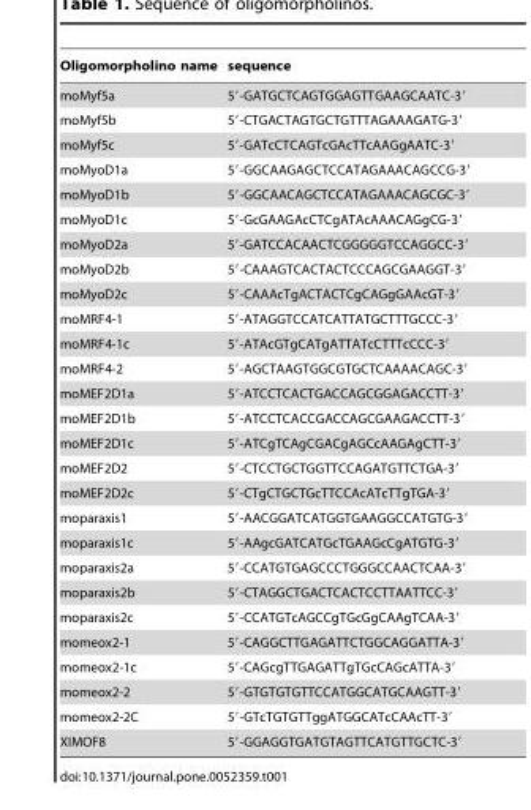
<table><thead><tr><td>Oligomorpholino name</td><td>sequence</td></tr></thead><tbody><tr><td>moMyf5a</td><td>5′-GATGCTCAGTGGAGTTGAAGCAATC-3′</td></tr><tr><td>moMyf5b</td><td>5′-CTGACTAGTGCTGTTTAGAAAGATG-3′</td></tr><tr><td>moMyf5c</td><td>5′-GATcCTCAGTcGAcTTcAAGgAATC-3′</td></tr><tr><td>moMyoD1a</td><td>5′-GGCAAGAGCTCCATAGAAACAGCCG-3′</td></tr><tr><td>moMyoD1b</td><td>5′-GGCAACAGCTCCATAGAAACAGCGC-3′</td></tr><tr><td>moMyoD1c</td><td>5′-GcGAAGAcCTCgATAcAAACAGgCG-3′</td></tr><tr><td>moMyoD2a</td><td>5′-GATCCACAACTCGGGGGTCCAGGCC-3′</td></tr><tr><td>moMyoD2b</td><td>5′-CAAAGTCACTACTCCCAGCGAAGGT-3′</td></tr><tr><td>moMyoD2c</td><td>5′-CAAAcTgACTACTCgCAGgGAAcGT-3′</td></tr><tr><td>moMRF4-1</td><td>5′-ATAGGTCCATCATTATGCTTTGCCC-3′</td></tr><tr><td>moMRF4-1c</td><td>5′-ATAcGTgCATgATTATcCTTTcCCC-3′</td></tr><tr><td>moMRF4-2</td><td>5′-AGCTAAGTGGCGTGCTCAAAACAGC-3′</td></tr><tr><td>moMEF2D1a</td><td>5′-ATCCTCACTGACCAGCGGAGACCTT-3′</td></tr><tr><td>moMEF2D1b</td><td>5′-ATCCTCACCGACCAGCGAAGACCTT-3′</td></tr><tr><td>moMEF2D1c</td><td>5′-ATCgTCAgCGACgAGCcAAGAgCTT-3′</td></tr><tr><td>moMEF2D2</td><td>5′-CTCCTGCTGGTTCCAGATGTTCTGA-3′</td></tr><tr><td>moMEF2D2c</td><td>5′-CTgCTGCTGcTTCCAcATcTTgTGA-3′</td></tr><tr><td>moparaxis1</td><td>5′-AACGGATCATGGTGAAGGCCATGTG-3′</td></tr><tr><td>moparaxis1c</td><td>5′-AAgcGATCATGcTGAAGcCgATGTG-3′</td></tr><tr><td>moparaxis2a</td><td>5′-CCATGTGAGCCCTGGGCCAACTCAA-3′</td></tr><tr><td>moparaxis2b</td><td>5′-CTAGGCTGACTCACTCCTTAATTCC-3′</td></tr><tr><td>moparaxis2c</td><td>5′-CCATGTcAGCCgTGcGgCAAgTCAA-3′</td></tr><tr><td>momeox2-1</td><td>5′-CAGGCTTGAGATTCTGGCAGGATTA-3′</td></tr><tr><td>momeox2-1c</td><td>5′-CAGcgTTGAGATTgTGcCAGcATTA-3′</td></tr><tr><td>momeox2-2</td><td>5′-GTGTGTGTTCCATGGCATGCAAGTT-3′</td></tr><tr><td>momeox2-2C</td><td>5′-GTcTGTGTTggATGGCATcCAAcTT-3′</td></tr><tr><td>XIMOF8</td><td>5′-GGAGGTGATGTAGTTCATGTTGCTC-3′</td></tr></tbody></table>